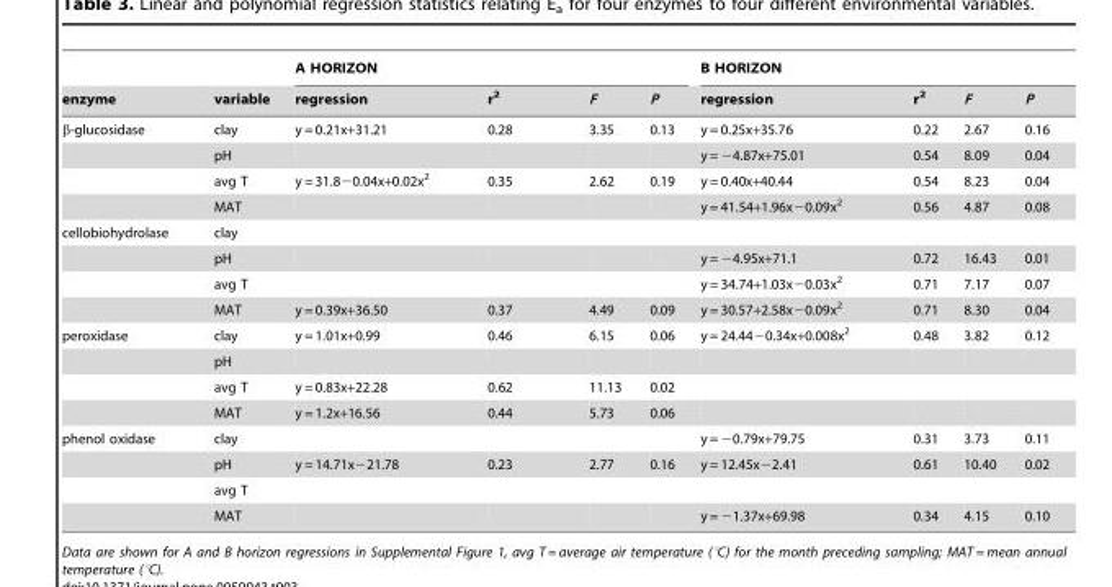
<table><thead><tr><td rowspan="2">enzyme</td><td rowspan="2">variable</td><td colspan="4">A HORIZON</td><td colspan="4">B HORIZON</td></tr><tr><td>regression</td><td>r<sup>2</sup></td><td>F</td><td>P</td><td>regression</td><td>r<sup>2</sup></td><td>F</td><td>P</td></tr></thead><tbody><tr><td rowspan="4">β-glucosidase</td><td>clay</td><td>y = 0.21x+31.21</td><td>0.28</td><td>3.35</td><td>0.13</td><td>y = 0.25x+35.76</td><td>0.22</td><td>2.67</td><td>0.16</td></tr><tr><td>pH</td><td></td><td></td><td></td><td></td><td>y = −4.87x+75.01</td><td>0.54</td><td>8.09</td><td>0.04</td></tr><tr><td>avg T</td><td>y = 31.8−0.04x+0.02x<sup>2</sup></td><td>0.35</td><td>2.62</td><td>0.19</td><td>y = 0.40x+40.44</td><td>0.54</td><td>8.23</td><td>0.04</td></tr><tr><td>MAT</td><td></td><td></td><td></td><td></td><td>y = 41.54+1.96x−0.09x<sup>2</sup></td><td>0.56</td><td>4.87</td><td>0.08</td></tr><tr><td rowspan="4">cellobiohydrolase</td><td>clay</td><td></td><td></td><td></td><td></td><td></td><td></td><td></td><td></td></tr><tr><td>pH</td><td></td><td></td><td></td><td></td><td>y = −4.95x+71.1</td><td>0.72</td><td>16.43</td><td>0.01</td></tr><tr><td>avg T</td><td></td><td></td><td></td><td></td><td>y = 34.74+1.03x−0.03x<sup>2</sup></td><td>0.71</td><td>7.17</td><td>0.07</td></tr><tr><td>MAT</td><td>y = 0.39x+36.50</td><td>0.37</td><td>4.49</td><td>0.09</td><td>y = 30.57+2.58x−0.09x<sup>2</sup></td><td>0.71</td><td>8.30</td><td>0.04</td></tr><tr><td rowspan="4">peroxidase</td><td>clay</td><td>y = 1.01x+0.99</td><td>0.46</td><td>6.15</td><td>0.06</td><td>y = 24.44−0.34x+0.008x<sup>2</sup></td><td>0.48</td><td>3.82</td><td>0.12</td></tr><tr><td>pH</td><td></td><td></td><td></td><td></td><td></td><td></td><td></td><td></td></tr><tr><td>avg T</td><td>y = 0.83x+22.28</td><td>0.62</td><td>11.13</td><td>0.02</td><td></td><td></td><td></td><td></td></tr><tr><td>MAT</td><td>y = 1.2x+16.56</td><td>0.44</td><td>5.73</td><td>0.06</td><td></td><td></td><td></td><td></td></tr><tr><td rowspan="4">phenol oxidase</td><td>clay</td><td></td><td></td><td></td><td></td><td>y = −0.79x+79.75</td><td>0.31</td><td>3.73</td><td>0.11</td></tr><tr><td>pH</td><td>y = 14.71x−21.78</td><td>0.23</td><td>2.77</td><td>0.16</td><td>y = 12.45x−2.41</td><td>0.61</td><td>10.40</td><td>0.02</td></tr><tr><td>avg T</td><td></td><td></td><td></td><td></td><td></td><td></td><td></td><td></td></tr><tr><td>MAT</td><td></td><td></td><td></td><td></td><td>y = −1.37x+69.98</td><td>0.34</td><td>4.15</td><td>0.10</td></tr></tbody></table>